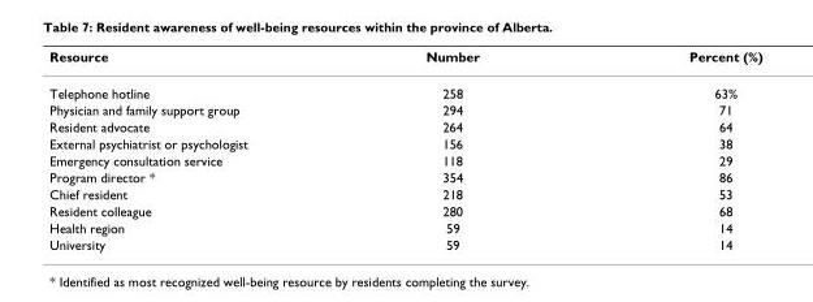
<table><thead><tr><td>Resource</td><td>Number</td><td>Percent (%)</td></tr></thead><tbody><tr><td>Telephone hotline</td><td>258</td><td>63%</td></tr><tr><td>Physician and family support group</td><td>294</td><td>71</td></tr><tr><td>Resident advocate</td><td>264</td><td>64</td></tr><tr><td>External psychiatrist or psychologist</td><td>156</td><td>38</td></tr><tr><td>Emergency consultation service</td><td>118</td><td>29</td></tr><tr><td>Program director *</td><td>354</td><td>86</td></tr><tr><td>Chief resident</td><td>218</td><td>53</td></tr><tr><td>Resident colleague</td><td>280</td><td>68</td></tr><tr><td>Health region</td><td>59</td><td>14</td></tr><tr><td>University</td><td>59</td><td>14</td></tr></tbody></table>